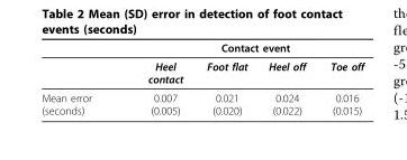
<table><thead><tr><td rowspan="2"></td><td colspan="4">Contact event</td></tr><tr><td>Heel contact</td><td>Foot flat</td><td>Heel off</td><td>Toe off</td></tr></thead><tbody><tr><td>Mean error (seconds)</td><td>0.007 (0.005)</td><td>0.021 (0.020)</td><td>0.024 (0.022)</td><td>0.016 (0.015)</td></tr></tbody></table>